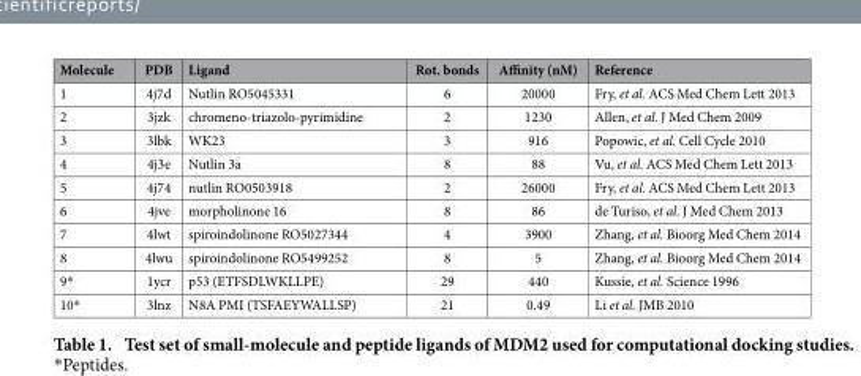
<table><thead><tr><td>Molecule</td><td>PDB</td><td>Ligand</td><td>Rot. bonds</td><td>Affinity (nM)</td><td>Reference</td></tr></thead><tbody><tr><td>1</td><td>4j7d</td><td>Nutlin RO5045331</td><td>6</td><td>20000</td><td>Fry, et al. ACS Med Chem Lett 2013</td></tr><tr><td>2</td><td>3jzk</td><td>chromeno-triazolo-pyrimidine</td><td>2</td><td>1230</td><td>Allen, et al. J Med Chem 2009</td></tr><tr><td>3</td><td>3lbk</td><td>WK23</td><td>3</td><td>916</td><td>Popowic, et al. Cell Cycle 2010</td></tr><tr><td>4</td><td>4j3e</td><td>Nutlin 3a</td><td>8</td><td>88</td><td>Vu, et al. ACS Med Chem Lett 2013</td></tr><tr><td>5</td><td>4j74</td><td>nutlin RO0503918</td><td>2</td><td>26000</td><td>Fry, et al. ACS Med Chem Lett 2013</td></tr><tr><td>6</td><td>4jve</td><td>morpholinone 16</td><td>8</td><td>86</td><td>de Turiso, et al. J Med Chem 2013</td></tr><tr><td>7</td><td>4lwt</td><td>spiroindolinone RO5027344</td><td>4</td><td>3900</td><td>Zhang, et al. Bioorg Med Chem 2014</td></tr><tr><td>8</td><td>4lwu</td><td>spiroindolinone RO5499252</td><td>8</td><td>5</td><td>Zhang, et al. Bioorg Med Chem 2014</td></tr><tr><td>9*</td><td>1ycr</td><td>p53 (ETFSDLWKLLPE)</td><td>29</td><td>440</td><td>Kussie, et al. Science 1996</td></tr><tr><td>10*</td><td>3lnz</td><td>N8A PMI (TSFAEYWALLSP)</td><td>21</td><td>0.49</td><td>Li et al. JMB 2010</td></tr></tbody></table>